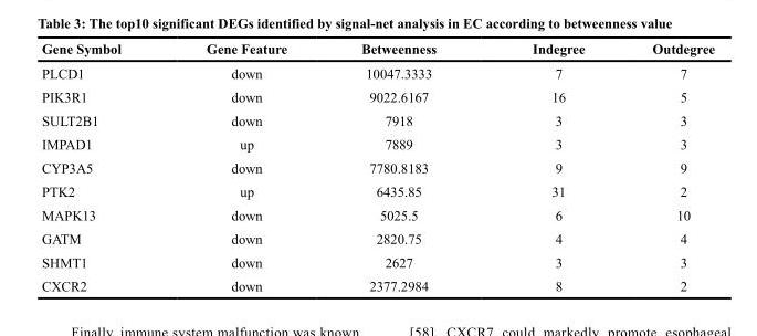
<table><thead><tr><td>Gene Symbol</td><td>Gene Feature</td><td>Betweenness</td><td>Indegree</td><td>Outdegree</td></tr></thead><tbody><tr><td>PLCD1</td><td>down</td><td>10047.3333</td><td>7</td><td>7</td></tr><tr><td>PIK3R1</td><td>down</td><td>9022.6167</td><td>16</td><td>5</td></tr><tr><td>SULT2B1</td><td>down</td><td>7918</td><td>3</td><td>3</td></tr><tr><td>IMPAD1</td><td>up</td><td>7889</td><td>3</td><td>3</td></tr><tr><td>CYP3A5</td><td>down</td><td>7780.8183</td><td>9</td><td>9</td></tr><tr><td>PTK2</td><td>up</td><td>6435.85</td><td>31</td><td>2</td></tr><tr><td>MAPK13</td><td>down</td><td>5025.5</td><td>6</td><td>10</td></tr><tr><td>GATM</td><td>down</td><td>2820.75</td><td>4</td><td>4</td></tr><tr><td>SHMT1</td><td>down</td><td>2627</td><td>3</td><td>3</td></tr><tr><td>CXCR2</td><td>down</td><td>2377.2984</td><td>8</td><td>2</td></tr></tbody></table>